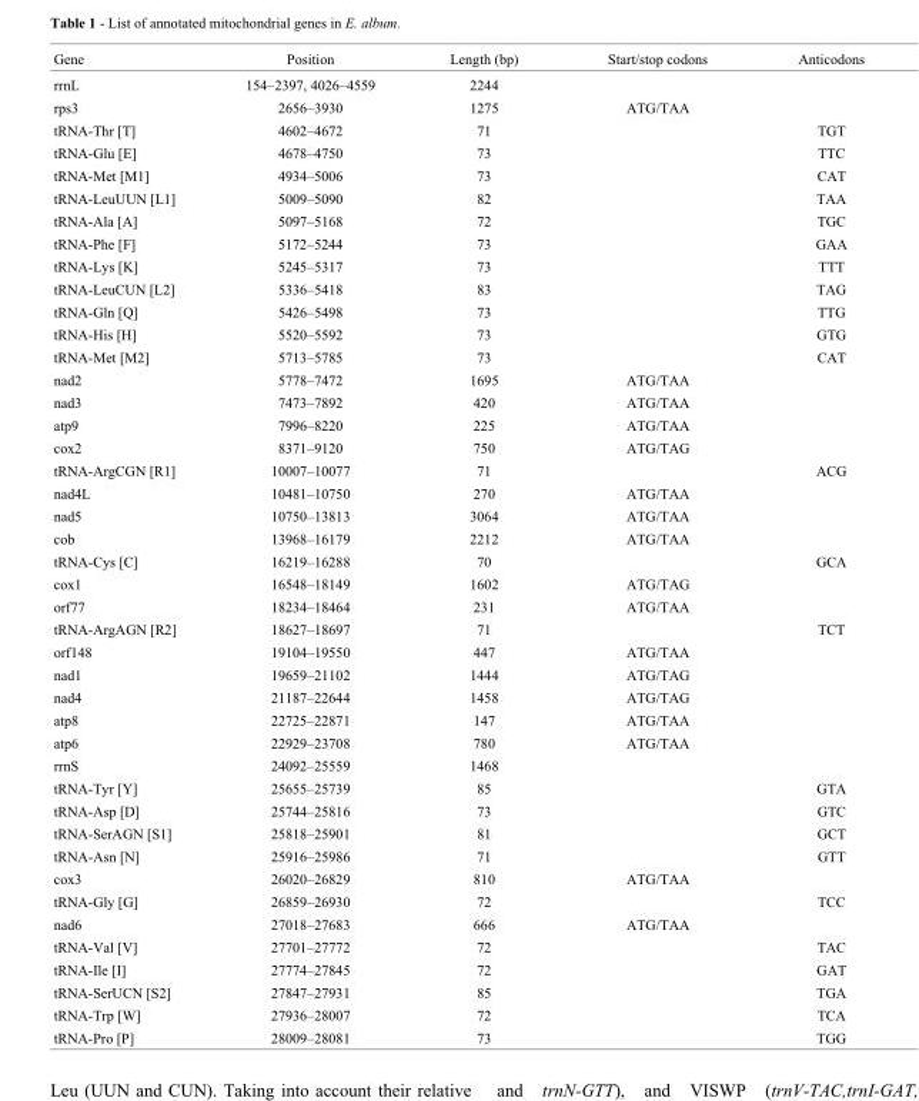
<table><thead><tr><td>Gene</td><td>Position</td><td>Length (bp)</td><td>Start/stop codons</td><td>Anticodons</td></tr></thead><tbody><tr><td>rrnL</td><td>154–2397, 4026–4559</td><td>2244</td><td></td><td></td></tr><tr><td>rps3</td><td>2656–3930</td><td>1275</td><td>ATG/TAA</td><td></td></tr><tr><td>tRNA-Thr [T]</td><td>4602–4672</td><td>71</td><td></td><td>TGT</td></tr><tr><td>tRNA-Glu [E]</td><td>4678–4750</td><td>73</td><td></td><td>TTC</td></tr><tr><td>tRNA-Met [M1]</td><td>4934–5006</td><td>73</td><td></td><td>CAT</td></tr><tr><td>tRNA-LeuUUN [L1]</td><td>5009–5090</td><td>82</td><td></td><td>TAA</td></tr><tr><td>tRNA-Ala [A]</td><td>5097–5168</td><td>72</td><td></td><td>TGC</td></tr><tr><td>tRNA-Phe [F]</td><td>5172–5244</td><td>73</td><td></td><td>GAA</td></tr><tr><td>tRNA-Lys [K]</td><td>5245–5317</td><td>73</td><td></td><td>TTT</td></tr><tr><td>tRNA-LeuCUN [L2]</td><td>5336–5418</td><td>83</td><td></td><td>TAG</td></tr><tr><td>tRNA-Gln [Q]</td><td>5426–5498</td><td>73</td><td></td><td>TTG</td></tr><tr><td>tRNA-His [H]</td><td>5520–5592</td><td>73</td><td></td><td>GTG</td></tr><tr><td>tRNA-Met [M2]</td><td>5713–5785</td><td>73</td><td></td><td>CAT</td></tr><tr><td>nad2</td><td>5778–7472</td><td>1695</td><td>ATG/TAA</td><td></td></tr><tr><td>nad3</td><td>7473–7892</td><td>420</td><td>ATG/TAA</td><td></td></tr><tr><td>atp9</td><td>7996–8220</td><td>225</td><td>ATG/TAA</td><td></td></tr><tr><td>cox2</td><td>8371–9120</td><td>750</td><td>ATG/TAG</td><td></td></tr><tr><td>tRNA-ArgCGN [R1]</td><td>10007–10077</td><td>71</td><td></td><td>ACG</td></tr><tr><td>nad4L</td><td>10481–10750</td><td>270</td><td>ATG/TAA</td><td></td></tr><tr><td>nad5</td><td>10750–13813</td><td>3064</td><td>ATG/TAA</td><td></td></tr><tr><td>cob</td><td>13968–16179</td><td>2212</td><td>ATG/TAA</td><td></td></tr><tr><td>tRNA-Cys [C]</td><td>16219–16288</td><td>70</td><td></td><td>GCA</td></tr><tr><td>cox1</td><td>16548–18149</td><td>1602</td><td>ATG/TAG</td><td></td></tr><tr><td>orf77</td><td>18234–18464</td><td>231</td><td>ATG/TAA</td><td></td></tr><tr><td>tRNA-ArgAGN [R2]</td><td>18627–18697</td><td>71</td><td></td><td>TCT</td></tr><tr><td>orf148</td><td>19104–19550</td><td>447</td><td>ATG/TAA</td><td></td></tr><tr><td>nad1</td><td>19659–21102</td><td>1444</td><td>ATG/TAG</td><td></td></tr><tr><td>nad4</td><td>21187–22644</td><td>1458</td><td>ATG/TAG</td><td></td></tr><tr><td>atp8</td><td>22725–22871</td><td>147</td><td>ATG/TAA</td><td></td></tr><tr><td>atp6</td><td>22929–23708</td><td>780</td><td>ATG/TAA</td><td></td></tr><tr><td>rrnS</td><td>24092–25559</td><td>1468</td><td></td><td></td></tr><tr><td>tRNA-Tyr [Y]</td><td>25655–25739</td><td>85</td><td></td><td>GTA</td></tr><tr><td>tRNA-Asp [D]</td><td>25744–25816</td><td>73</td><td></td><td>GTC</td></tr><tr><td>tRNA-SerAGN [S1]</td><td>25818–25901</td><td>81</td><td></td><td>GCT</td></tr><tr><td>tRNA-Asn [N]</td><td>25916–25986</td><td>71</td><td></td><td>GTT</td></tr><tr><td>cox3</td><td>26020–26829</td><td>810</td><td>ATG/TAA</td><td></td></tr><tr><td>tRNA-Gly [G]</td><td>26859–26930</td><td>72</td><td></td><td>TCC</td></tr><tr><td>nad6</td><td>27018–27683</td><td>666</td><td>ATG/TAA</td><td></td></tr><tr><td>tRNA-Val [V]</td><td>27701–27772</td><td>72</td><td></td><td>TAC</td></tr><tr><td>tRNA-Ile [I]</td><td>27774–27845</td><td>72</td><td></td><td>GAT</td></tr><tr><td>tRNA-SerUCN [S2]</td><td>27847–27931</td><td>85</td><td></td><td>TGA</td></tr><tr><td>tRNA-Trp [W]</td><td>27936–28007</td><td>72</td><td></td><td>TCA</td></tr><tr><td>tRNA-Pro [P]</td><td>28009–28081</td><td>73</td><td></td><td>TGG</td></tr></tbody></table>